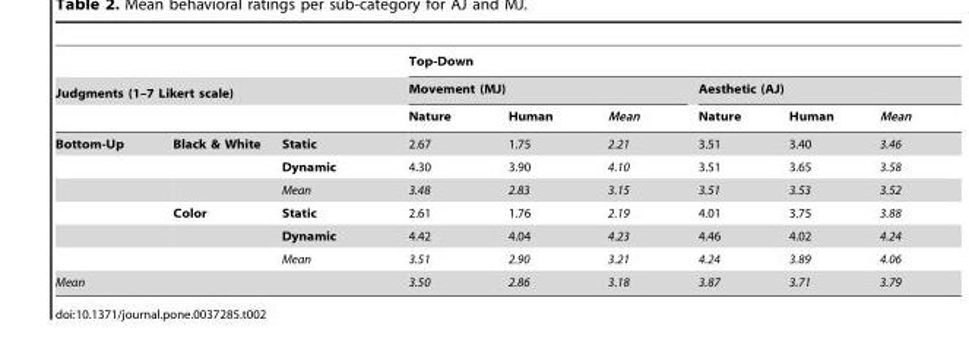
<table><thead><tr><td></td><td></td><td></td><td colspan="6">Top-Down</td></tr><tr><td colspan="3">Judgments (1–7 Likert scale)</td><td colspan="3">Movement (MJ)</td><td colspan="3">Aesthetic (AJ)</td></tr><tr><td></td><td></td><td></td><td>Nature</td><td>Human</td><td>Mean</td><td>Nature</td><td>Human</td><td>Mean</td></tr></thead><tbody><tr><td rowspan="6">Bottom-Up</td><td>Black &amp; White</td><td>Static</td><td>2.67</td><td>1.75</td><td>2.21</td><td>3.51</td><td>3.40</td><td>3.46</td></tr><tr><td></td><td>Dynamic</td><td>4.30</td><td>3.90</td><td>4.10</td><td>3.51</td><td>3.65</td><td>3.58</td></tr><tr><td></td><td>Mean</td><td>3.48</td><td>2.83</td><td>3.15</td><td>3.51</td><td>3.53</td><td>3.52</td></tr><tr><td>Color</td><td>Static</td><td>2.61</td><td>1.76</td><td>2.19</td><td>4.01</td><td>3.75</td><td>3.88</td></tr><tr><td></td><td>Dynamic</td><td>4.42</td><td>4.04</td><td>4.23</td><td>4.46</td><td>4.02</td><td>4.24</td></tr><tr><td></td><td>Mean</td><td>3.51</td><td>2.90</td><td>3.21</td><td>4.24</td><td>3.89</td><td>4.06</td></tr><tr><td colspan="3">Mean</td><td>3.50</td><td>2.86</td><td>3.18</td><td>3.87</td><td>3.71</td><td>3.79</td></tr></tbody></table>